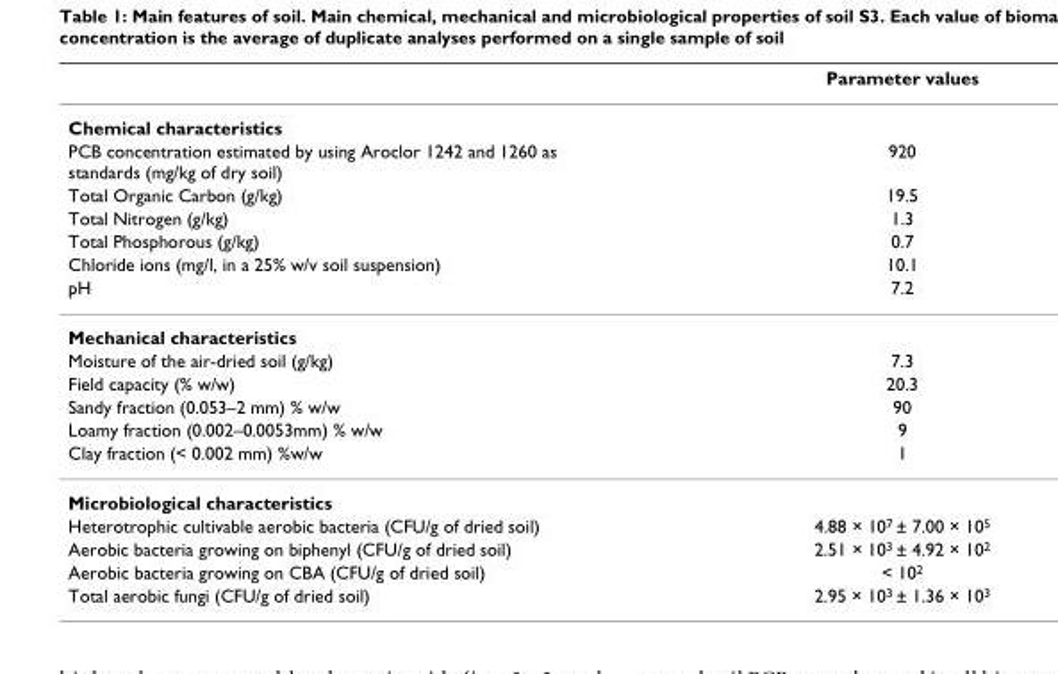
<table><thead><tr><td></td><td>Parameter values</td></tr></thead><tbody><tr><td colspan="2">Chemical characteristics</td></tr><tr><td>PCB concentration estimated by using Aroclor 1242 and 1260 as standards (mg/kg of dry soil)</td><td>920</td></tr><tr><td>Total Organic Carbon (g/kg)</td><td>19.5</td></tr><tr><td>Total Nitrogen (g/kg)</td><td>1.3</td></tr><tr><td>Total Phosphorous (g/kg)</td><td>0.7</td></tr><tr><td>Chloride ions (mg/l, in a 25% w/v soil suspension)</td><td>10.1</td></tr><tr><td>pH</td><td>7.2</td></tr><tr><td colspan="2">Mechanical characteristics</td></tr><tr><td>Moisture of the air-dried soil (g/kg)</td><td>7.3</td></tr><tr><td>Field capacity (% w/w)</td><td>20.3</td></tr><tr><td>Sandy fraction (0.053–2 mm) % w/w</td><td>90</td></tr><tr><td>Loamy fraction (0.002–0.0053mm) % w/w</td><td>9</td></tr><tr><td>Clay fraction (&lt; 0.002 mm) %w/w</td><td>1</td></tr><tr><td colspan="2">Microbiological characteristics</td></tr><tr><td>Heterotrophic cultivable aerobic bacteria (CFU/g of dried soil)</td><td>4.88 × 10<sup>7</sup> ± 7.00 × 10<sup>5</sup></td></tr><tr><td>Aerobic bacteria growing on biphenyl (CFU/g of dried soil)</td><td>2.51 × 10<sup>3</sup> ± 4.92 × 10<sup>2</sup></td></tr><tr><td>Aerobic bacteria growing on CBA (CFU/g of dried soil)</td><td>&lt; 10<sup>2</sup></td></tr><tr><td>Total aerobic fungi (CFU/g of dried soil)</td><td>2.95 × 10<sup>3</sup> ± 1.36 × 10<sup>3</sup></td></tr></tbody></table>